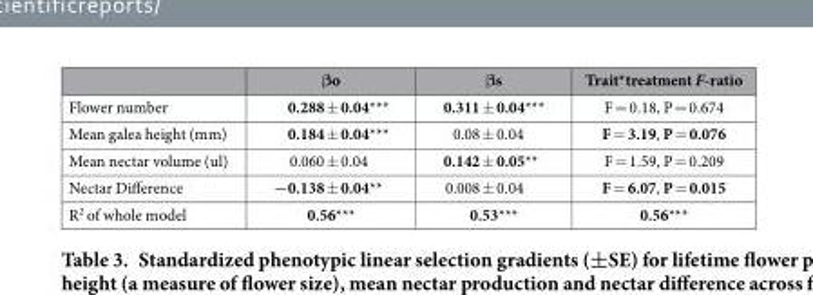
<table><thead><tr><td></td><td>βo</td><td>βs</td><td>Trait*treatment F-ratio</td></tr></thead><tbody><tr><td>Flower number</td><td>0.288 ± 0.04***</td><td>0.311 ± 0.04***</td><td>F = 0.18, P = 0.674</td></tr><tr><td>Mean galea height (mm)</td><td>0.184 ± 0.04***</td><td>0.08 ± 0.04</td><td>F = 3.19, P = 0.076</td></tr><tr><td>Mean nectar volume (ul)</td><td>0.060 ± 0.04</td><td>0.142 ± 0.05**</td><td>F = 1.59, P = 0.209</td></tr><tr><td>Nectar Difference</td><td>−0.138 ± 0.04**</td><td>0.008 ± 0.04</td><td>F = 6.07, P = 0.015</td></tr><tr><td>R<sup>2</sup> of whole model</td><td>0.56***</td><td>0.53***</td><td>0.56***</td></tr></tbody></table>